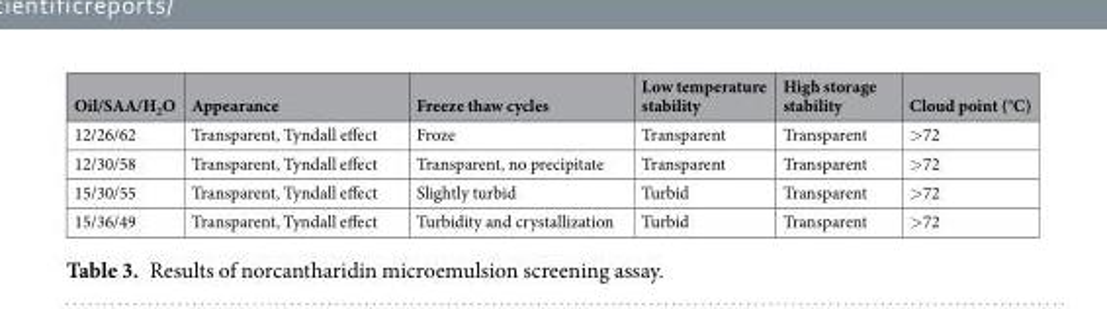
<table><thead><tr><td>Oil/SAA/H<sub>2</sub>O</td><td>Appearance</td><td>Freeze thaw cycles</td><td>Low temperature stability</td><td>High storage stability</td><td>Cloud point (°C)</td></tr></thead><tbody><tr><td>12/26/62</td><td>Transparent, Tyndall effect</td><td>Froze</td><td>Transparent</td><td>Transparent</td><td>&gt;72</td></tr><tr><td>12/30/58</td><td>Transparent, Tyndall effect</td><td>Transparent, no precipitate</td><td>Transparent</td><td>Transparent</td><td>&gt;72</td></tr><tr><td>15/30/55</td><td>Transparent, Tyndall effect</td><td>Slightly turbid</td><td>Turbid</td><td>Transparent</td><td>&gt;72</td></tr><tr><td>15/36/49</td><td>Transparent, Tyndall effect</td><td>Turbidity and crystallization</td><td>Turbid</td><td>Transparent</td><td>&gt;72</td></tr></tbody></table>